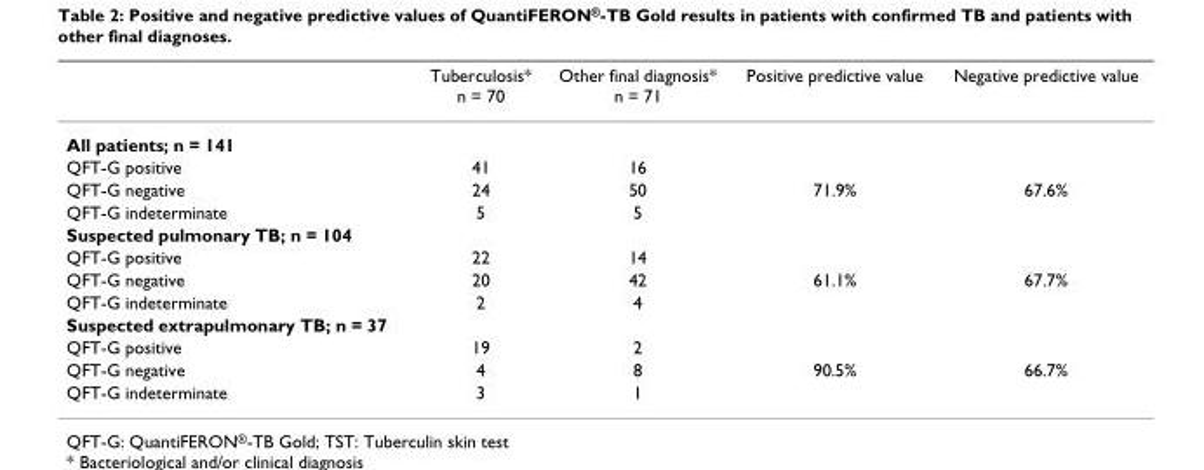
<table><thead><tr><td></td><td>Tuberculosis* n = 70</td><td>Other final diagnosis* n = 71</td><td>Positive predictive value</td><td>Negative predictive value</td></tr></thead><tbody><tr><td colspan="5">All patients; n = 141</td></tr><tr><td>QFT-G positive</td><td>41</td><td>16</td><td></td><td></td></tr><tr><td>QFT-G negative</td><td>24</td><td>50</td><td>71.9%</td><td>67.6%</td></tr><tr><td>QFT-G indeterminate</td><td>5</td><td>5</td><td></td><td></td></tr><tr><td colspan="5">Suspected pulmonary TB; n = 104</td></tr><tr><td>QFT-G positive</td><td>22</td><td>14</td><td></td><td></td></tr><tr><td>QFT-G negative</td><td>20</td><td>42</td><td>61.1%</td><td>67.7%</td></tr><tr><td>QFT-G indeterminate</td><td>2</td><td>4</td><td></td><td></td></tr><tr><td colspan="5">Suspected extrapulmonary TB; n = 37</td></tr><tr><td>QFT-G positive</td><td>19</td><td>2</td><td></td><td></td></tr><tr><td>QFT-G negative</td><td>4</td><td>8</td><td>90.5%</td><td>66.7%</td></tr><tr><td>QFT-G indeterminate</td><td>3</td><td>1</td><td></td><td></td></tr></tbody></table>